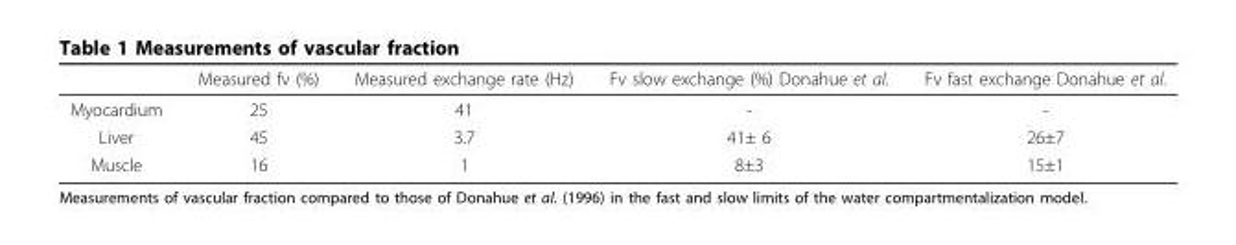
<table><thead><tr><td></td><td>Measured fv (%)</td><td>Measured exchange rate (Hz)</td><td>Fv slow exchange (%) Donahue et al.</td><td>Fv fast exchange Donahue et al.</td></tr></thead><tbody><tr><td>Myocardium</td><td>25</td><td>41</td><td>-</td><td>-</td></tr><tr><td>Liver</td><td>45</td><td>3.7</td><td>41± 6</td><td>26±7</td></tr><tr><td>Muscle</td><td>16</td><td>1</td><td>8±3</td><td>15±1</td></tr></tbody></table>